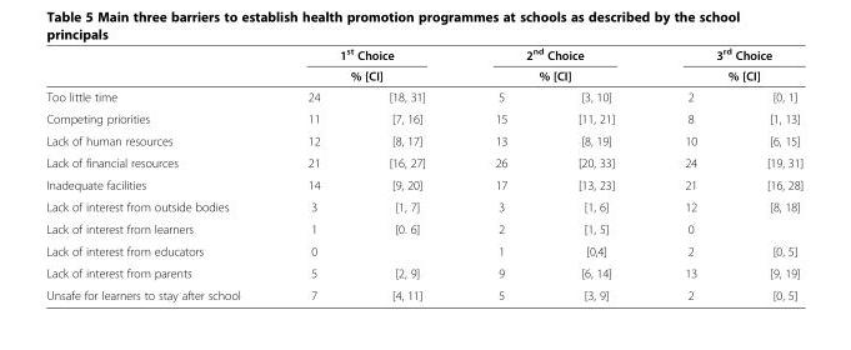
<table><thead><tr><td rowspan="3">Too little time</td><td rowspan="2" colspan="2">1<sup>st</sup> Choice % [CI]</td><td rowspan="2" colspan="2">2<sup>nd</sup> Choice % [CI]</td><td rowspan="2" colspan="2">3<sup>rd</sup> Choice % [CI]</td></tr><tr></tr><tr><td>24</td><td>[18, 31]</td><td>5</td><td>[3, 10]</td><td>2</td><td>[0, 1]</td></tr></thead><tbody><tr><td>Competing priorities</td><td>11</td><td>[7, 16]</td><td>15</td><td>[11, 21]</td><td>8</td><td>[1, 13]</td></tr><tr><td>Lack of human resources</td><td>12</td><td>[8, 17]</td><td>13</td><td>[8, 19]</td><td>10</td><td>[6, 15]</td></tr><tr><td>Lack of financial resources</td><td>21</td><td>[16, 27]</td><td>26</td><td>[20, 33]</td><td>24</td><td>[19, 31]</td></tr><tr><td>Inadequate facilities</td><td>14</td><td>[9, 20]</td><td>17</td><td>[13, 23]</td><td>21</td><td>[16, 28]</td></tr><tr><td>Lack of interest from outside bodies</td><td>3</td><td>[1, 7]</td><td>3</td><td>[1, 6]</td><td>12</td><td>[8, 18]</td></tr><tr><td>Lack of interest from learners</td><td>1</td><td>[0. 6]</td><td>2</td><td>[1, 5]</td><td>0</td><td></td></tr><tr><td>Lack of interest from educators</td><td>0</td><td></td><td>1</td><td>[0,4]</td><td>2</td><td>[0, 5]</td></tr><tr><td>Lack of interest from parents</td><td>5</td><td>[2, 9]</td><td>9</td><td>[6, 14]</td><td>13</td><td>[9, 19]</td></tr><tr><td>Unsafe for learners to stay after school</td><td>7</td><td>[4, 11]</td><td>5</td><td>[3, 9]</td><td>2</td><td>[0, 5]</td></tr></tbody></table>